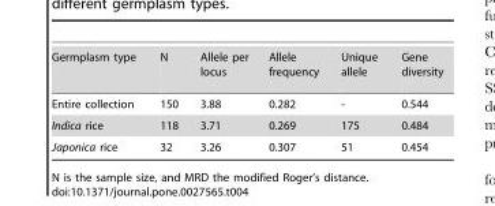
<table><tbody><tr><td>Germplasm type</td><td>N</td><td>Allele per locus</td><td>Allele frequency</td><td>Unique allele</td><td>Gene diversity</td></tr><tr><td>Entire collection</td><td>150</td><td>3.88</td><td>0.282</td><td>-</td><td>0.544</td></tr><tr><td>Indica rice</td><td>118</td><td>3.71</td><td>0.269</td><td>175</td><td>0.484</td></tr><tr><td>Japonica rice</td><td>32</td><td>3.26</td><td>0.307</td><td>51</td><td>0.454</td></tr></tbody></table>